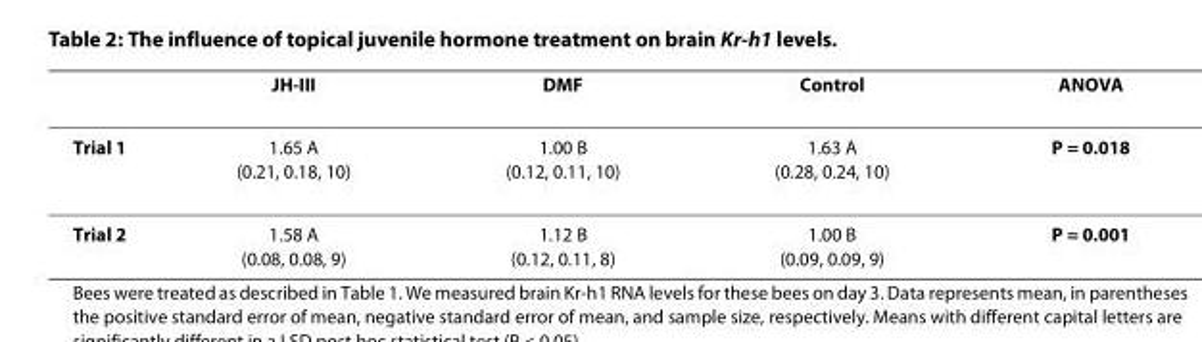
<table><thead><tr><td></td><td>JH-III</td><td>DMF</td><td>Control</td><td>ANOVA</td></tr></thead><tbody><tr><td>Trial 1</td><td>1.65 A (0.21, 0.18, 10)</td><td>1.00 B (0.12, 0.11, 10)</td><td>1.63 A (0.28, 0.24, 10)</td><td>P = 0.018</td></tr><tr><td>Trial 2</td><td>1.58 A (0.08, 0.08, 9)</td><td>1.12 B (0.12, 0.11, 8)</td><td>1.00 B (0.09, 0.09, 9)</td><td>P = 0.001</td></tr></tbody></table>